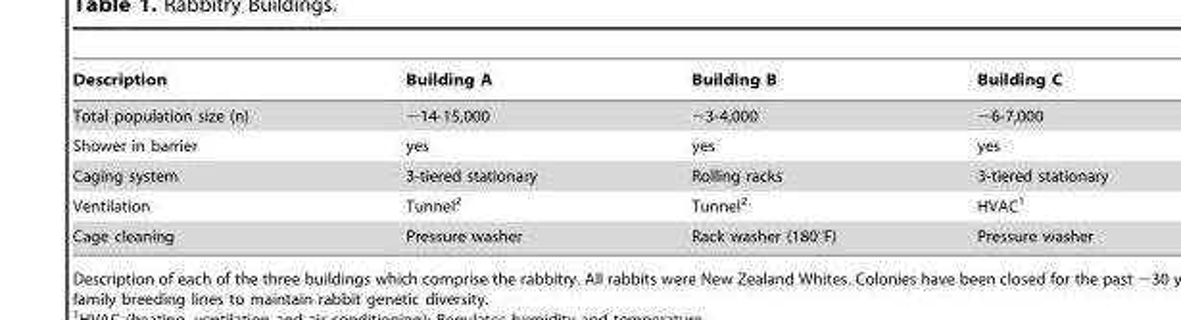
<table><thead><tr><td>Description</td><td>Building A</td><td>Building B</td><td>Building C</td></tr></thead><tbody><tr><td>Total population size (n)</td><td>∼14-15,000</td><td>∼3-4,000</td><td>∼6-7,000</td></tr><tr><td>Shower in barrier</td><td>yes</td><td>yes</td><td>yes</td></tr><tr><td>Caging system</td><td>3-tiered stationary</td><td>Rolling racks</td><td>3-tiered stationary</td></tr><tr><td>Ventilation</td><td>Tunnel<sup>2</sup></td><td>Tunnel<sup>2</sup></td><td>HVAC<sup>1</sup></td></tr><tr><td>Cage cleaning</td><td>Pressure washer</td><td>Rack washer (180°F)</td><td>Pressure washer</td></tr></tbody></table>